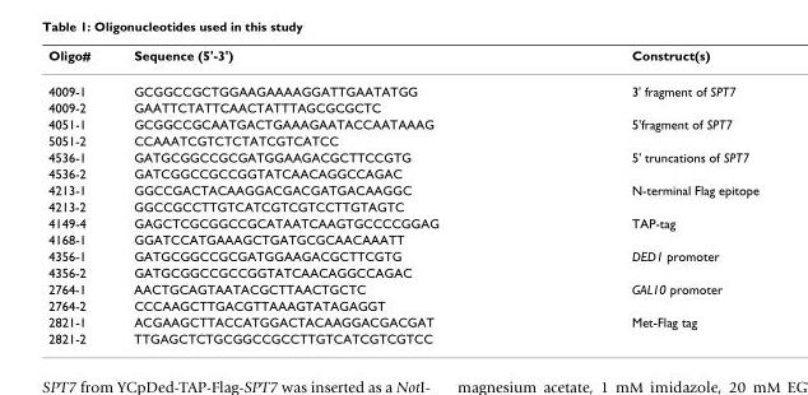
<table><thead><tr><td>Oligo#</td><td>Sequence (5&#x27;-3&#x27;)</td><td>Construct(s)</td></tr></thead><tbody><tr><td>4009-1</td><td>GCGGCCGCTGGAAGAAAAGGATTGAATATGG</td><td>3&#x27; fragment of SPT7</td></tr><tr><td>4009-2</td><td>GAATTCTATTCAACTATTTAGCGCGCTC</td><td></td></tr><tr><td>4051-1</td><td>GCGGCCGCAATGACTGAAAGAATACCAATAAAG</td><td>5&#x27;fragment of SPT7</td></tr><tr><td>5051-2</td><td>CCAAATCGTCTCTATCGTCATCC</td><td></td></tr><tr><td>4536-1</td><td>GATGCGGCCGCGATGGAAGACGCTTCCGTG</td><td>5&#x27; truncations of SPT7</td></tr><tr><td>4536-2</td><td>GATCGGCCGCCGGTATCAACAGGCCAGAC</td><td></td></tr><tr><td>4213-1</td><td>GGCCGACTACAAGGACGACGATGACAAGGC</td><td>N-terminal Flag epitope</td></tr><tr><td>4213-2</td><td>GGCCGCCTTGTCATCGTCGTCCTTGTAGTC</td><td></td></tr><tr><td>4149-4</td><td>GAGCTCGCGGCCGCATAATCAAGTGCCCCGGAG</td><td>TAP-tag</td></tr><tr><td>4168-1</td><td>GGATCCATGAAAGCTGATGCGCAACAAATT</td><td></td></tr><tr><td>4356-1</td><td>GATGCGGCCGCGATGGAAGACGCTTCGTG</td><td>DED1 promoter</td></tr><tr><td>4356-2</td><td>GATGCGGCCGCCGGTATCAACAGGCCAGAC</td><td></td></tr><tr><td>2764-1</td><td>AACTGCAGTAATACGCTTAACTGCTC</td><td>GAL10 promoter</td></tr><tr><td>2764-2</td><td>CCCAAGCTTGACGTTAAAGTATAGAGGT</td><td></td></tr><tr><td>2821-1</td><td>ACGAAGCTTACCATGGACTACAAGGACGACGAT</td><td>Met-Flag tag</td></tr><tr><td>2821-2</td><td>TTGAGCTCTGCGGCCGCCTTGTCATCGTCGTCC</td><td></td></tr></tbody></table>